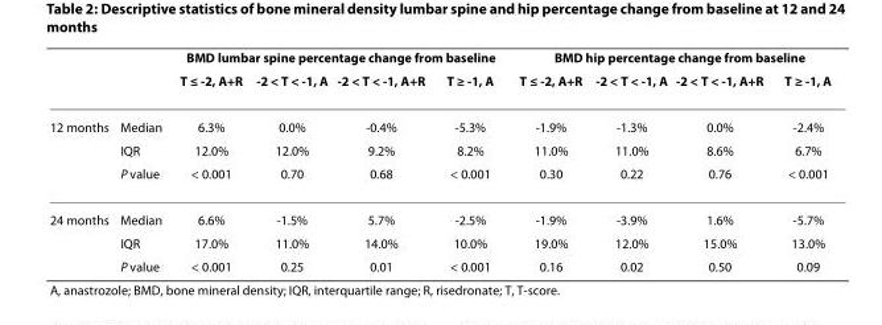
<table><thead><tr><td rowspan="2"></td><td rowspan="2"></td><td colspan="4">BMD lumbar spine percentage change from baseline</td><td colspan="4">BMD hip percentage change from baseline</td></tr><tr><td>T ≤ -2, A+R</td><td>-2 &lt; T &lt; -1, A</td><td>-2 &lt; T &lt; -1, A+R</td><td>T ≥ -1, A</td><td>T ≤ -2, A+R</td><td>-2 &lt; T &lt; -1, A</td><td>-2 &lt; T &lt; -1, A+R</td><td>T ≥ -1, A</td></tr></thead><tbody><tr><td rowspan="3">12 months</td><td>Median</td><td>6.3%</td><td>0.0%</td><td>-0.4%</td><td>-5.3%</td><td>-1.9%</td><td>-1.3%</td><td>0.0%</td><td>-2.4%</td></tr><tr><td>IQR</td><td>12.0%</td><td>12.0%</td><td>9.2%</td><td>8.2%</td><td>11.0%</td><td>11.0%</td><td>8.6%</td><td>6.7%</td></tr><tr><td>P value</td><td>&lt; 0.001</td><td>0.70</td><td>0.68</td><td>&lt; 0.001</td><td>0.30</td><td>0.22</td><td>0.76</td><td>&lt; 0.001</td></tr><tr><td rowspan="3">24 months</td><td>Median</td><td>6.6%</td><td>-1.5%</td><td>5.7%</td><td>-2.5%</td><td>-1.9%</td><td>-3.9%</td><td>1.6%</td><td>-5.7%</td></tr><tr><td>IQR</td><td>17.0%</td><td>11.0%</td><td>14.0%</td><td>10.0%</td><td>19.0%</td><td>12.0%</td><td>15.0%</td><td>13.0%</td></tr><tr><td>P value</td><td>&lt; 0.001</td><td>0.25</td><td>0.01</td><td>&lt; 0.001</td><td>0.16</td><td>0.02</td><td>0.50</td><td>0.09</td></tr></tbody></table>